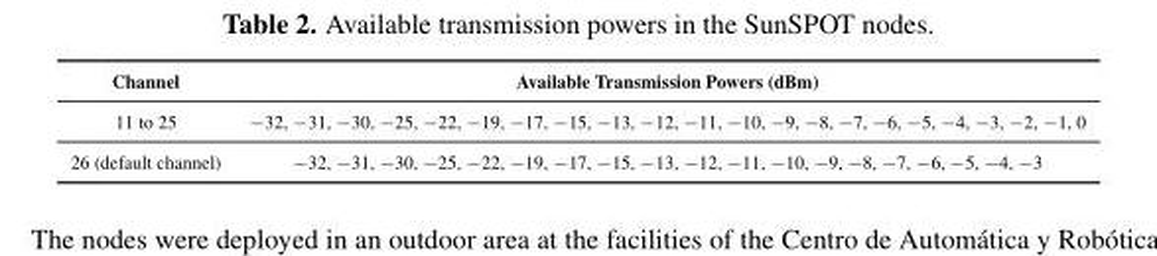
<table><thead><tr><td>Channel</td><td>Available Transmission Powers (dBm)</td></tr></thead><tbody><tr><td>11 to 25</td><td>−32, −31, −30, −25, −22, −19, −17, −15, −13, −12, −11, −10, −9, −8, −7, −6, −5, −4, −3, −2, −1, 0</td></tr><tr><td>26 (default channel)</td><td>−32, −31, −30, −25, −22, −19, −17, −15, −13, −12, −11, −10, −9, −8, −7, −6, −5, −4, −3</td></tr></tbody></table>